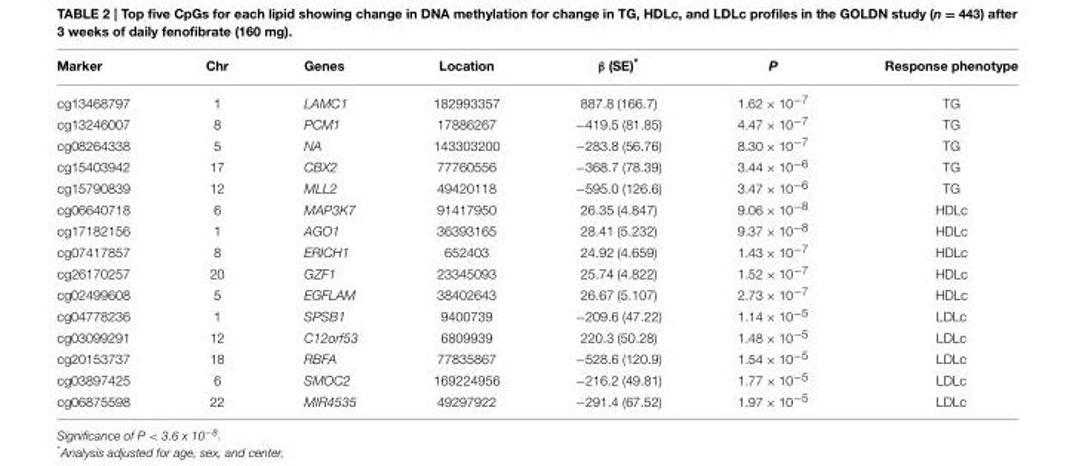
<table><thead><tr><td>Marker</td><td>Chr</td><td>Genes</td><td>Location</td><td>β (SE)*</td><td>P</td><td>Response phenotype</td></tr></thead><tbody><tr><td>cg13468797</td><td>1</td><td>LAMC1</td><td>182993357</td><td>887.8 (166.7)</td><td>1.62 × 10<sup>−7</sup></td><td>TG</td></tr><tr><td>cg13246007</td><td>8</td><td>PCM1</td><td>17886267</td><td>−419.5 (81.85)</td><td>4.47 × 10<sup>−7</sup></td><td>TG</td></tr><tr><td>cg08264338</td><td>5</td><td>NA</td><td>143303200</td><td>−283.8 (56.76)</td><td>8.30 × 10<sup>−7</sup></td><td>TG</td></tr><tr><td>cg15403942</td><td>17</td><td>CBX2</td><td>77760556</td><td>−368.7 (78.39)</td><td>3.44 × 10<sup>−6</sup></td><td>TG</td></tr><tr><td>cg15790839</td><td>12</td><td>MLL2</td><td>49420118</td><td>−595.0 (126.6)</td><td>3.47 × 10<sup>−6</sup></td><td>TG</td></tr><tr><td>cg06640718</td><td>6</td><td>MAP3K7</td><td>91417950</td><td>26.35 (4.847)</td><td>9.06 × 10<sup>−8</sup></td><td>HDLc</td></tr><tr><td>cg17182156</td><td>1</td><td>AGO1</td><td>36393165</td><td>28.41 (5.232)</td><td>9.37 × 10<sup>−8</sup></td><td>HDLc</td></tr><tr><td>cg07417857</td><td>8</td><td>ERICH1</td><td>652403</td><td>24.92 (4.659)</td><td>1.43 × 10<sup>−7</sup></td><td>HDLc</td></tr><tr><td>cg26170257</td><td>20</td><td>GZF1</td><td>23345093</td><td>25.74 (4.822)</td><td>1.52 × 10<sup>−7</sup></td><td>HDLc</td></tr><tr><td>cg02499608</td><td>5</td><td>EGFLAM</td><td>38402643</td><td>26.67 (5.107)</td><td>2.73 × 10<sup>−7</sup></td><td>HDLc</td></tr><tr><td>cg04778236</td><td>1</td><td>SPSB1</td><td>9400739</td><td>−209.6 (47.22)</td><td>1.14 × 10<sup>−5</sup></td><td>LDLc</td></tr><tr><td>cg03099291</td><td>12</td><td>C12orf53</td><td>6809939</td><td>220.3 (50.28)</td><td>1.48 × 10<sup>−5</sup></td><td>LDLc</td></tr><tr><td>cg20153737</td><td>18</td><td>RBFA</td><td>77835867</td><td>−528.6 (120.9)</td><td>1.54 × 10<sup>−5</sup></td><td>LDLc</td></tr><tr><td>cg03897425</td><td>6</td><td>SMOC2</td><td>169224956</td><td>−216.2 (49.81)</td><td>1.77 × 10<sup>−5</sup></td><td>LDLc</td></tr><tr><td>cg06875598</td><td>22</td><td>MIR4535</td><td>49297922</td><td>−291.4 (67.52)</td><td>1.97 × 10<sup>−5</sup></td><td>LDLc</td></tr></tbody></table>